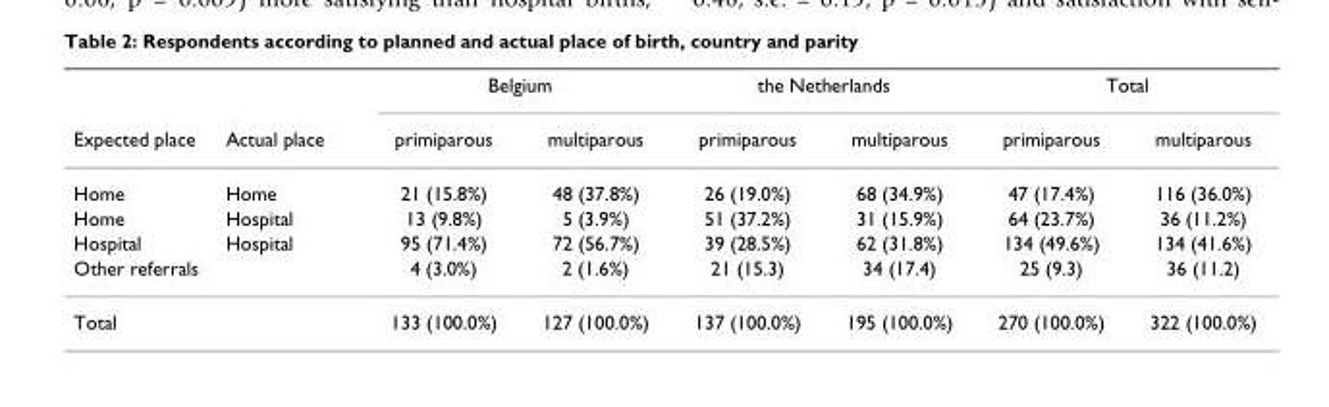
<table><thead><tr><td rowspan="2">Expected place</td><td rowspan="2">Actual place</td><td colspan="2">Belgium</td><td colspan="2">the Netherlands</td><td colspan="2">Total</td></tr><tr><td>primiparous</td><td>multiparous</td><td>primiparous</td><td>multiparous</td><td>primiparous</td><td>multiparous</td></tr></thead><tbody><tr><td>Home</td><td>Home</td><td>21 (15.8%)</td><td>48 (37.8%)</td><td>26 (19.0%)</td><td>68 (34.9%)</td><td>47 (17.4%)</td><td>116 (36.0%)</td></tr><tr><td>Home</td><td>Hospital</td><td>13 (9.8%)</td><td>5 (3.9%)</td><td>51 (37.2%)</td><td>31 (15.9%)</td><td>64 (23.7%)</td><td>36 (11.2%)</td></tr><tr><td>Hospital</td><td>Hospital</td><td>95 (71.4%)</td><td>72 (56.7%)</td><td>39 (28.5%)</td><td>62 (31.8%)</td><td>134 (49.6%)</td><td>134 (41.6%)</td></tr><tr><td colspan="2">Other referrals</td><td>4 (3.0%)</td><td>2 (1.6%)</td><td>21 (15.3)</td><td>34 (17.4)</td><td>25 (9.3)</td><td>36 (11.2)</td></tr><tr><td colspan="2">Total</td><td>133 (100.0%)</td><td>127 (100.0%)</td><td>137 (100.0%)</td><td>195 (100.0%)</td><td>270 (100.0%)</td><td>322 (100.0%)</td></tr></tbody></table>